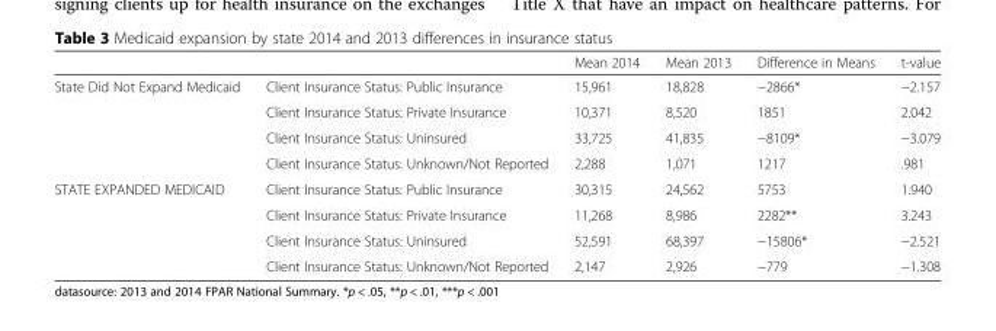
<table><thead><tr><td></td><td></td><td>Mean 2014</td><td>Mean 2013</td><td>Difference in Means</td><td>t-value</td></tr></thead><tbody><tr><td rowspan="4">State Did Not Expand Medicaid</td><td>Client Insurance Status: Public Insurance</td><td>15,961</td><td>18,828</td><td>−2866*</td><td>−2.157</td></tr><tr><td>Client Insurance Status: Private Insurance</td><td>10,371</td><td>8,520</td><td>1851</td><td>2.042</td></tr><tr><td>Client Insurance Status: Uninsured</td><td>33,725</td><td>41,835</td><td>−8109*</td><td>−3.079</td></tr><tr><td>Client Insurance Status: Unknown/Not Reported</td><td>2,288</td><td>1,071</td><td>1217</td><td>.981</td></tr><tr><td rowspan="4">STATE EXPANDED MEDICAID</td><td>Client Insurance Status: Public Insurance</td><td>30,315</td><td>24,562</td><td>5753</td><td>1.940</td></tr><tr><td>Client Insurance Status: Private Insurance</td><td>11,268</td><td>8,986</td><td>2282**</td><td>3.243</td></tr><tr><td>Client Insurance Status: Uninsured</td><td>52,591</td><td>68,397</td><td>−15806*</td><td>−2.521</td></tr><tr><td>Client Insurance Status: Unknown/Not Reported</td><td>2,147</td><td>2,926</td><td>−779</td><td>−1.308</td></tr></tbody></table>